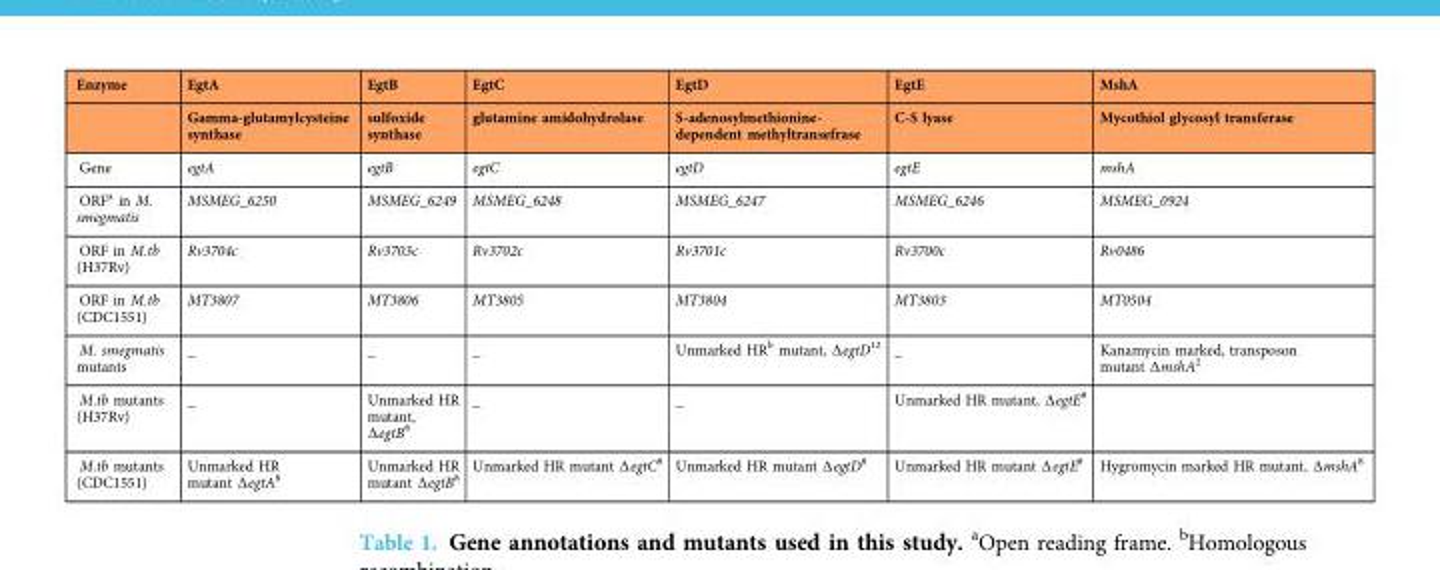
<table><thead><tr><td rowspan="2">Enzyme</td><td rowspan="2">EgtA Gamma-glutamylcysteine synthase</td><td rowspan="2">EgtB sulfoxide synthase</td><td rowspan="2">EgtC glutamine amidohydrolase</td><td rowspan="2">EgtD S-adenosylmethionine- dependent methyltransefrase</td><td rowspan="2">EgtE C-S lyase</td><td rowspan="2">MshA Mycothiol glycosyl transferase</td></tr><tr></tr></thead><tbody><tr><td>Gene</td><td>egtA</td><td>egtB</td><td>egtC</td><td>egtD</td><td>egtE</td><td>mshA</td></tr><tr><td>ORF<sup>a</sup> in M. smegmatis</td><td>MSMEG_6250</td><td>MSMEG_6249</td><td>MSMEG_6248</td><td>MSMEG_6247</td><td>MSMEG_6246</td><td>MSMEG_0924</td></tr><tr><td>ORF in M.tb (H37Rv)</td><td>Rv3704c</td><td>Rv3703c</td><td>Rv3702c</td><td>Rv3701c</td><td>Rv3700c</td><td>Rv0486</td></tr><tr><td>ORF in M.tb (CDC1551)</td><td>MT3807</td><td>MT3806</td><td>MT3805</td><td>MT3804</td><td>MT3803</td><td>MT0504</td></tr><tr><td>M. smegmatis mutants</td><td>_</td><td>_</td><td>_</td><td>Unmarked HRb mutant, ΔegtD12</td><td>_</td><td>Kanamycin marked, transposon mutant ΔmshA2</td></tr><tr><td>M.tb mutants (H37Rv)</td><td>_</td><td>Unmarked HR mutant, ΔegtB8</td><td>_</td><td>_</td><td>Unmarked HR mutant, ΔegtE8</td><td></td></tr><tr><td>M.tb mutants (CDC1551)</td><td>Unmarked HR mutant ΔegtA8</td><td>Unmarked HR mutant ΔegtB8</td><td>Unmarked HR mutant ΔegtC8</td><td>Unmarked HR mutant ΔegtD8</td><td>Unmarked HR mutant ΔegtE8</td><td>Hygromycin marked HR mutant, ΔmshA8</td></tr></tbody></table>